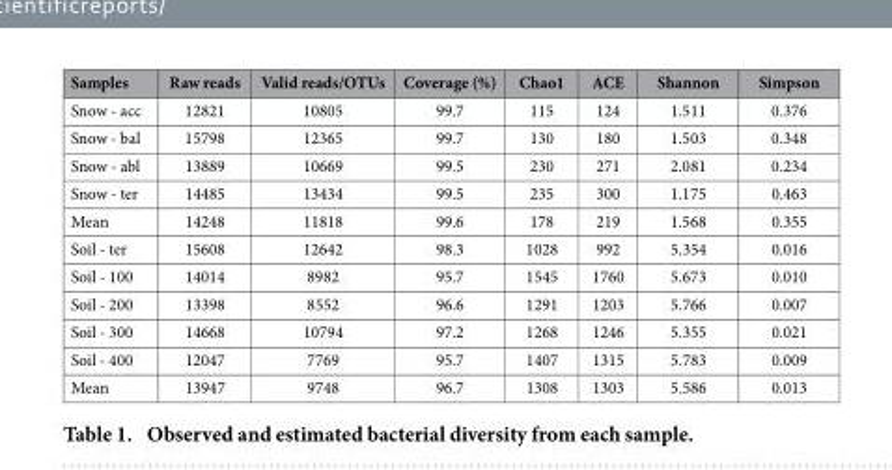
<table><thead><tr><td>Samples</td><td>Raw reads</td><td>Valid reads/OTUs</td><td>Coverage (%)</td><td>Chao1</td><td>ACE</td><td>Shannon</td><td>Simpson</td></tr></thead><tbody><tr><td>Snow - acc</td><td>12821</td><td>10805</td><td>99.7</td><td>115</td><td>124</td><td>1.511</td><td>0.376</td></tr><tr><td>Snow - bal</td><td>15798</td><td>12365</td><td>99.7</td><td>130</td><td>180</td><td>1.503</td><td>0.348</td></tr><tr><td>Snow - abl</td><td>13889</td><td>10669</td><td>99.5</td><td>230</td><td>271</td><td>2.081</td><td>0.234</td></tr><tr><td>Snow - ter</td><td>14485</td><td>13434</td><td>99.5</td><td>235</td><td>300</td><td>1.175</td><td>0.463</td></tr><tr><td>Mean</td><td>14248</td><td>11818</td><td>99.6</td><td>178</td><td>219</td><td>1.568</td><td>0.355</td></tr><tr><td>Soil - ter</td><td>15608</td><td>12642</td><td>98.3</td><td>1028</td><td>992</td><td>5.354</td><td>0.016</td></tr><tr><td>Soil - 100</td><td>14014</td><td>8982</td><td>95.7</td><td>1545</td><td>1760</td><td>5.673</td><td>0.010</td></tr><tr><td>Soil - 200</td><td>13398</td><td>8552</td><td>96.6</td><td>1291</td><td>1203</td><td>5.766</td><td>0.007</td></tr><tr><td>Soil - 300</td><td>14668</td><td>10794</td><td>97.2</td><td>1268</td><td>1246</td><td>5.355</td><td>0.021</td></tr><tr><td>Soil - 400</td><td>12047</td><td>7769</td><td>95.7</td><td>1407</td><td>1315</td><td>5.783</td><td>0.009</td></tr><tr><td>Mean</td><td>13947</td><td>9748</td><td>96.7</td><td>1308</td><td>1303</td><td>5.586</td><td>0.013</td></tr></tbody></table>